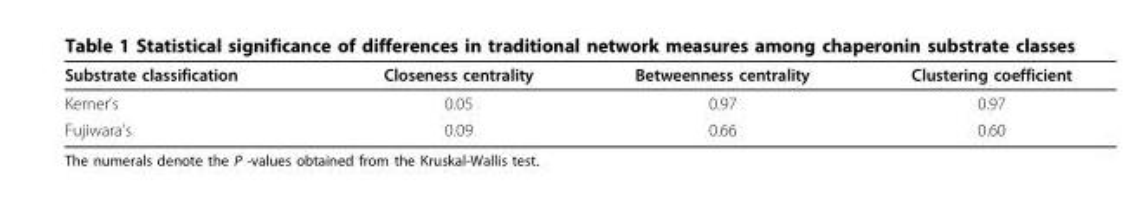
<table><thead><tr><td>Substrate classification</td><td>Closeness centrality</td><td>Betweenness centrality</td><td>Clustering coefficient</td></tr></thead><tbody><tr><td>Kerner’s</td><td>0.05</td><td>0.97</td><td>0.97</td></tr><tr><td>Fujiwara’s</td><td>0.09</td><td>0.66</td><td>0.60</td></tr></tbody></table>